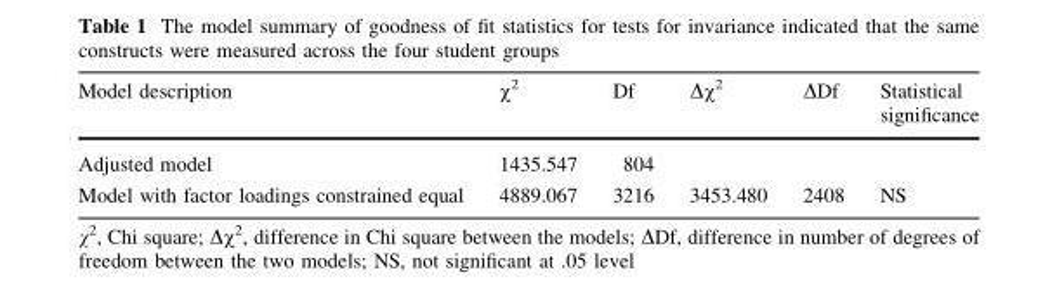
<table><thead><tr><td>Model description</td><td>χ<sup>2</sup></td><td>Df</td><td>Δχ<sup>2</sup></td><td>ΔDf</td><td>Statistical significance</td></tr></thead><tbody><tr><td>Adjusted model</td><td>1435.547</td><td>804</td><td></td><td></td><td></td></tr><tr><td>Model with factor loadings constrained equal</td><td>4889.067</td><td>3216</td><td>3453.480</td><td>2408</td><td>NS</td></tr></tbody></table>